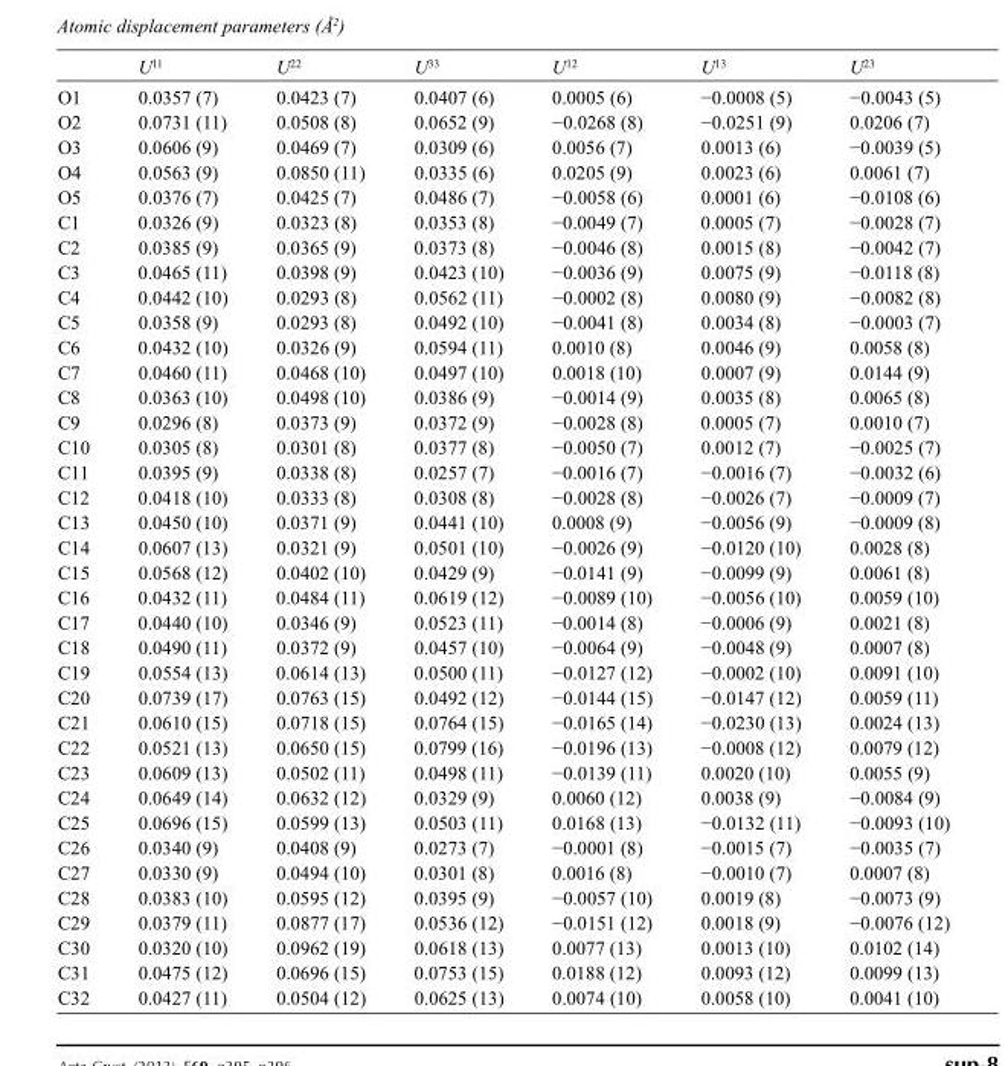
<table><thead><tr><td></td><td>U<sup>11</sup></td><td>U<sup>22</sup></td><td>U<sup>33</sup></td><td>U<sup>12</sup></td><td>U<sup>13</sup></td><td>U<sup>23</sup></td></tr></thead><tbody><tr><td>O1</td><td>0.0357 (7)</td><td>0.0423 (7)</td><td>0.0407 (6)</td><td>0.0005 (6)</td><td>−0.0008 (5)</td><td>−0.0043 (5)</td></tr><tr><td>O2</td><td>0.0731 (11)</td><td>0.0508 (8)</td><td>0.0652 (9)</td><td>−0.0268 (8)</td><td>−0.0251 (9)</td><td>0.0206 (7)</td></tr><tr><td>O3</td><td>0.0606 (9)</td><td>0.0469 (7)</td><td>0.0309 (6)</td><td>0.0056 (7)</td><td>0.0013 (6)</td><td>−0.0039 (5)</td></tr><tr><td>O4</td><td>0.0563 (9)</td><td>0.0850 (11)</td><td>0.0335 (6)</td><td>0.0205 (9)</td><td>0.0023 (6)</td><td>0.0061 (7)</td></tr><tr><td>O5</td><td>0.0376 (7)</td><td>0.0425 (7)</td><td>0.0486 (7)</td><td>−0.0058 (6)</td><td>0.0001 (6)</td><td>−0.0108 (6)</td></tr><tr><td>C1</td><td>0.0326 (9)</td><td>0.0323 (8)</td><td>0.0353 (8)</td><td>−0.0049 (7)</td><td>0.0005 (7)</td><td>−0.0028 (7)</td></tr><tr><td>C2</td><td>0.0385 (9)</td><td>0.0365 (9)</td><td>0.0373 (8)</td><td>−0.0046 (8)</td><td>0.0015 (8)</td><td>−0.0042 (7)</td></tr><tr><td>C3</td><td>0.0465 (11)</td><td>0.0398 (9)</td><td>0.0423 (10)</td><td>−0.0036 (9)</td><td>0.0075 (9)</td><td>−0.0118 (8)</td></tr><tr><td>C4</td><td>0.0442 (10)</td><td>0.0293 (8)</td><td>0.0562 (11)</td><td>−0.0002 (8)</td><td>0.0080 (9)</td><td>−0.0082 (8)</td></tr><tr><td>C5</td><td>0.0358 (9)</td><td>0.0293 (8)</td><td>0.0492 (10)</td><td>−0.0041 (8)</td><td>0.0034 (8)</td><td>−0.0003 (7)</td></tr><tr><td>C6</td><td>0.0432 (10)</td><td>0.0326 (9)</td><td>0.0594 (11)</td><td>0.0010 (8)</td><td>0.0046 (9)</td><td>0.0058 (8)</td></tr><tr><td>C7</td><td>0.0460 (11)</td><td>0.0468 (10)</td><td>0.0497 (10)</td><td>0.0018 (10)</td><td>0.0007 (9)</td><td>0.0144 (9)</td></tr><tr><td>C8</td><td>0.0363 (10)</td><td>0.0498 (10)</td><td>0.0386 (9)</td><td>−0.0014 (9)</td><td>0.0035 (8)</td><td>0.0065 (8)</td></tr><tr><td>C9</td><td>0.0296 (8)</td><td>0.0373 (9)</td><td>0.0372 (9)</td><td>−0.0028 (8)</td><td>0.0005 (7)</td><td>0.0010 (7)</td></tr><tr><td>C10</td><td>0.0305 (8)</td><td>0.0301 (8)</td><td>0.0377 (8)</td><td>−0.0050 (7)</td><td>0.0012 (7)</td><td>−0.0025 (7)</td></tr><tr><td>C11</td><td>0.0395 (9)</td><td>0.0338 (8)</td><td>0.0257 (7)</td><td>−0.0016 (7)</td><td>−0.0016 (7)</td><td>−0.0032 (6)</td></tr><tr><td>C12</td><td>0.0418 (10)</td><td>0.0333 (8)</td><td>0.0308 (8)</td><td>−0.0028 (8)</td><td>−0.0026 (7)</td><td>−0.0009 (7)</td></tr><tr><td>C13</td><td>0.0450 (10)</td><td>0.0371 (9)</td><td>0.0441 (10)</td><td>0.0008 (9)</td><td>−0.0056 (9)</td><td>−0.0009 (8)</td></tr><tr><td>C14</td><td>0.0607 (13)</td><td>0.0321 (9)</td><td>0.0501 (10)</td><td>−0.0026 (9)</td><td>−0.0120 (10)</td><td>0.0028 (8)</td></tr><tr><td>C15</td><td>0.0568 (12)</td><td>0.0402 (10)</td><td>0.0429 (9)</td><td>−0.0141 (9)</td><td>−0.0099 (9)</td><td>0.0061 (8)</td></tr><tr><td>C16</td><td>0.0432 (11)</td><td>0.0484 (11)</td><td>0.0619 (12)</td><td>−0.0089 (10)</td><td>−0.0056 (10)</td><td>0.0059 (10)</td></tr><tr><td>C17</td><td>0.0440 (10)</td><td>0.0346 (9)</td><td>0.0523 (11)</td><td>−0.0014 (8)</td><td>−0.0006 (9)</td><td>0.0021 (8)</td></tr><tr><td>C18</td><td>0.0490 (11)</td><td>0.0372 (9)</td><td>0.0457 (10)</td><td>−0.0064 (9)</td><td>−0.0048 (9)</td><td>0.0007 (8)</td></tr><tr><td>C19</td><td>0.0554 (13)</td><td>0.0614 (13)</td><td>0.0500 (11)</td><td>−0.0127 (12)</td><td>−0.0002 (10)</td><td>0.0091 (10)</td></tr><tr><td>C20</td><td>0.0739 (17)</td><td>0.0763 (15)</td><td>0.0492 (12)</td><td>−0.0144 (15)</td><td>−0.0147 (12)</td><td>0.0059 (11)</td></tr><tr><td>C21</td><td>0.0610 (15)</td><td>0.0718 (15)</td><td>0.0764 (15)</td><td>−0.0165 (14)</td><td>−0.0230 (13)</td><td>0.0024 (13)</td></tr><tr><td>C22</td><td>0.0521 (13)</td><td>0.0650 (15)</td><td>0.0799 (16)</td><td>−0.0196 (13)</td><td>−0.0008 (12)</td><td>0.0079 (12)</td></tr><tr><td>C23</td><td>0.0609 (13)</td><td>0.0502 (11)</td><td>0.0498 (11)</td><td>−0.0139 (11)</td><td>0.0020 (10)</td><td>0.0055 (9)</td></tr><tr><td>C24</td><td>0.0649 (14)</td><td>0.0632 (12)</td><td>0.0329 (9)</td><td>0.0060 (12)</td><td>0.0038 (9)</td><td>−0.0084 (9)</td></tr><tr><td>C25</td><td>0.0696 (15)</td><td>0.0599 (13)</td><td>0.0503 (11)</td><td>0.0168 (13)</td><td>−0.0132 (11)</td><td>−0.0093 (10)</td></tr><tr><td>C26</td><td>0.0340 (9)</td><td>0.0408 (9)</td><td>0.0273 (7)</td><td>−0.0001 (8)</td><td>−0.0015 (7)</td><td>−0.0035 (7)</td></tr><tr><td>C27</td><td>0.0330 (9)</td><td>0.0494 (10)</td><td>0.0301 (8)</td><td>0.0016 (8)</td><td>−0.0010 (7)</td><td>0.0007 (8)</td></tr><tr><td>C28</td><td>0.0383 (10)</td><td>0.0595 (12)</td><td>0.0395 (9)</td><td>−0.0057 (10)</td><td>0.0019 (8)</td><td>−0.0073 (9)</td></tr><tr><td>C29</td><td>0.0379 (11)</td><td>0.0877 (17)</td><td>0.0536 (12)</td><td>−0.0151 (12)</td><td>0.0018 (9)</td><td>−0.0076 (12)</td></tr><tr><td>C30</td><td>0.0320 (10)</td><td>0.0962 (19)</td><td>0.0618 (13)</td><td>0.0077 (13)</td><td>0.0013 (10)</td><td>0.0102 (14)</td></tr><tr><td>C31</td><td>0.0475 (12)</td><td>0.0696 (15)</td><td>0.0753 (15)</td><td>0.0188 (12)</td><td>0.0093 (12)</td><td>0.0099 (13)</td></tr><tr><td>C32</td><td>0.0427 (11)</td><td>0.0504 (12)</td><td>0.0625 (13)</td><td>0.0074 (10)</td><td>0.0058 (10)</td><td>0.0041 (10)</td></tr></tbody></table>